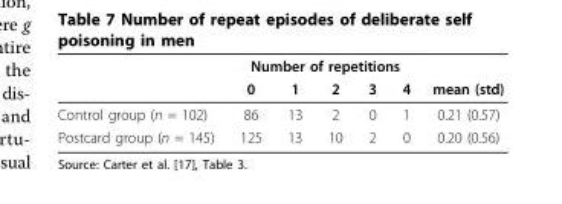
<table><thead><tr><td rowspan="2"></td><td colspan="5">Number of repetitions</td><td rowspan="2">mean (std)</td></tr><tr><td>0</td><td>1</td><td>2</td><td>3</td><td>4</td></tr></thead><tbody><tr><td>Control group (n = 102)</td><td>86</td><td>13</td><td>2</td><td>0</td><td>1</td><td>0.21 (0.57)</td></tr><tr><td>Postcard group (n = 145)</td><td>125</td><td>13</td><td>10</td><td>2</td><td>0</td><td>0.20 (0.56)</td></tr></tbody></table>